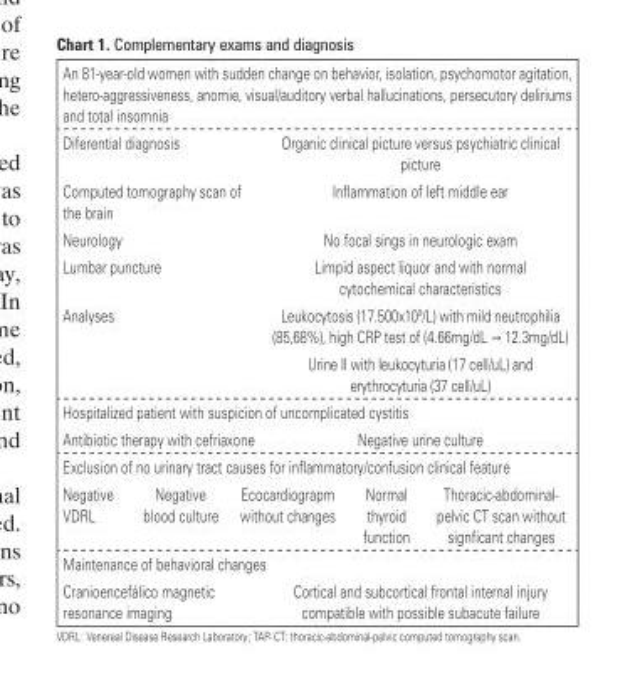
<table><tbody><tr><td colspan="6">An 81-year-old women with sudden change on behavior, isolation, psychomotor agitation, hetero-aggressiveness, anomie, visual/auditory verbal hallucinations, persecutory deliriums and total insomnia</td></tr><tr><td colspan="3">Diferential diagnosis</td><td colspan="3">Organic clinical picture versus psychiatric clinical picture</td></tr><tr><td colspan="3">Computed tomography scan of the brain</td><td colspan="3">Inflammation of left middle ear</td></tr><tr><td colspan="3">Neurology</td><td colspan="3">No focal sings in neurologic exam</td></tr><tr><td colspan="3">Lumbar puncture</td><td colspan="3">Limpid aspect liquor and with normal cytochemical characteristics</td></tr><tr><td rowspan="2" colspan="3">Analyses</td><td colspan="3">Leukocytosis (17.500x10<sup>9</sup>/L) with mild neutrophilia (85,68%), high CRP test of (4.66mg/dL → 12.3mg/dL)</td></tr><tr><td colspan="3">Urine II with leukocyturia (17 cell/uL) and erythrocyturia (37 cell/uL)</td></tr><tr><td colspan="6">Hospitalized patient with suspicion of uncomplicated cystitis</td></tr><tr><td colspan="3">Antibiotic therapy with cefriaxone</td><td colspan="3">Negative urine culture</td></tr><tr><td colspan="6">Exclusion of no urinary tract causes for inflammatory/confusion clinical feature</td></tr><tr><td>Negative VDRL</td><td>Negative blood culture</td><td colspan="2">Ecocardiograpm without changes</td><td>Normal thyroid function</td><td>Thoracic-abdominal- pelvic CT scan without signficant changes</td></tr><tr><td colspan="6">Maintenance of behavioral changes</td></tr><tr><td colspan="3">Cranioencefálico magnetic resonance imaging</td><td colspan="3">Cortical and subcortical frontal internal injury compatible with possible subacute failure</td></tr></tbody></table>